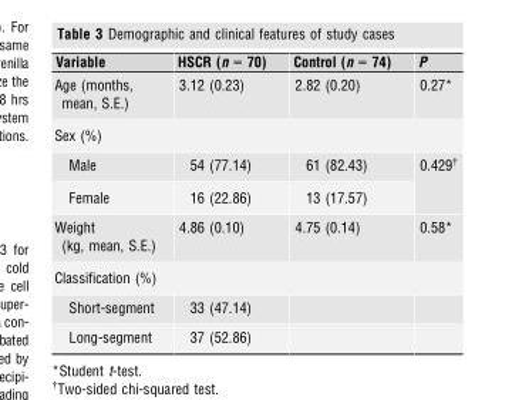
<table><thead><tr><td>Variable</td><td>HSCR (n = 70)</td><td>Control (n = 74)</td><td>P</td></tr></thead><tbody><tr><td>Age (months, mean, S.E.)</td><td>3.12 (0.23)</td><td>2.82 (0.20)</td><td>0.27*</td></tr><tr><td colspan="4">Sex (%)</td></tr><tr><td>Male</td><td>54 (77.14)</td><td>61 (82.43)</td><td rowspan="2">0.429†</td></tr><tr><td>Female</td><td>16 (22.86)</td><td>13 (17.57)</td></tr><tr><td>Weight (kg, mean, S.E.)</td><td>4.86 (0.10)</td><td>4.75 (0.14)</td><td>0.58*</td></tr><tr><td colspan="4">Classification (%)</td></tr><tr><td>Short-segment</td><td>33 (47.14)</td><td></td><td></td></tr><tr><td>Long-segment</td><td>37 (52.86)</td><td></td><td></td></tr></tbody></table>